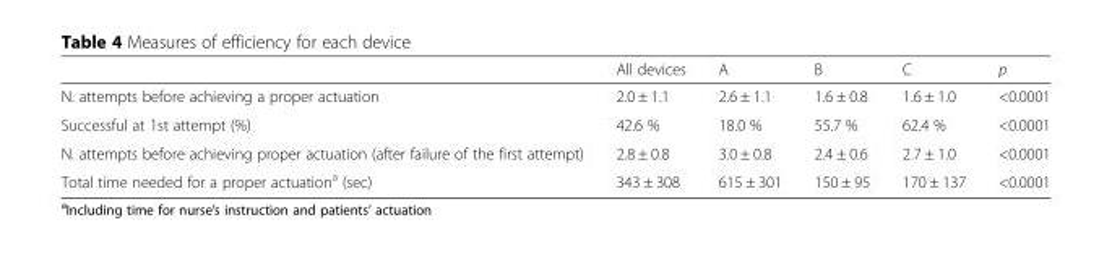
<table><thead><tr><td></td><td>All devices</td><td>A</td><td>B</td><td>C</td><td>p</td></tr></thead><tbody><tr><td>N. attempts before achieving a proper actuation</td><td>2.0 ± 1.1</td><td>2.6 ± 1.1</td><td>1.6 ± 0.8</td><td>1.6 ± 1.0</td><td>&lt;0.0001</td></tr><tr><td>Successful at 1st attempt (%)</td><td>42.6 %</td><td>18.0 %</td><td>55.7 %</td><td>62.4 %</td><td>&lt;0.0001</td></tr><tr><td>N. attempts before achieving proper actuation (after failure of the first attempt)</td><td>2.8 ± 0.8</td><td>3.0 ± 0.8</td><td>2.4 ± 0.6</td><td>2.7 ± 1.0</td><td>&lt;0.0001</td></tr><tr><td>Total time needed for a proper actuation<sup>a</sup> (sec)</td><td>343 ± 308</td><td>615 ± 301</td><td>150 ± 95</td><td>170 ± 137</td><td>&lt;0.0001</td></tr></tbody></table>